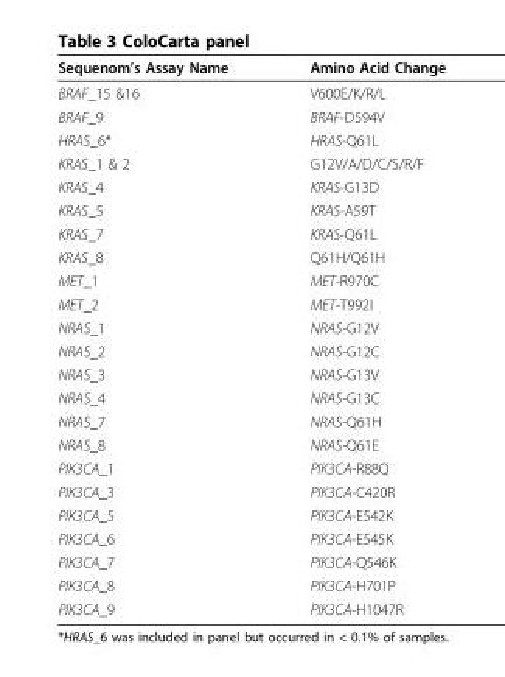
<table><thead><tr><td>Sequenom’s Assay Name</td><td>Amino Acid Change</td></tr></thead><tbody><tr><td>BRAF_15 &amp;16</td><td>V600E/K/R/L</td></tr><tr><td>BRAF_9</td><td>BRAF-D594V</td></tr><tr><td>HRAS_6*</td><td>HRAS-Q61L</td></tr><tr><td>KRAS_1 &amp; 2</td><td>G12V/A/D/C/S/R/F</td></tr><tr><td>KRAS_4</td><td>KRAS-G13D</td></tr><tr><td>KRAS_5</td><td>KRAS-A59T</td></tr><tr><td>KRAS_7</td><td>KRAS-Q61L</td></tr><tr><td>KRAS_8</td><td>Q61H/Q61H</td></tr><tr><td>MET_1</td><td>MET-R970C</td></tr><tr><td>MET_2</td><td>MET-T992I</td></tr><tr><td>NRAS_1</td><td>NRAS-G12V</td></tr><tr><td>NRAS_2</td><td>NRAS-G12C</td></tr><tr><td>NRAS_3</td><td>NRAS-G13V</td></tr><tr><td>NRAS_4</td><td>NRAS-G13C</td></tr><tr><td>NRAS_7</td><td>NRAS-Q61H</td></tr><tr><td>NRAS_8</td><td>NRAS-Q61E</td></tr><tr><td>PIK3CA_1</td><td>PIK3CA-R88Q</td></tr><tr><td>PIK3CA_3</td><td>PIK3CA-C420R</td></tr><tr><td>PIK3CA_5</td><td>PIK3CA-E542K</td></tr><tr><td>PIK3CA_6</td><td>PIK3CA-E545K</td></tr><tr><td>PIK3CA_7</td><td>PIK3CA-Q546K</td></tr><tr><td>PIK3CA_8</td><td>PIK3CA-H701P</td></tr><tr><td>PIK3CA_9</td><td>PIK3CA-H1047R</td></tr></tbody></table>